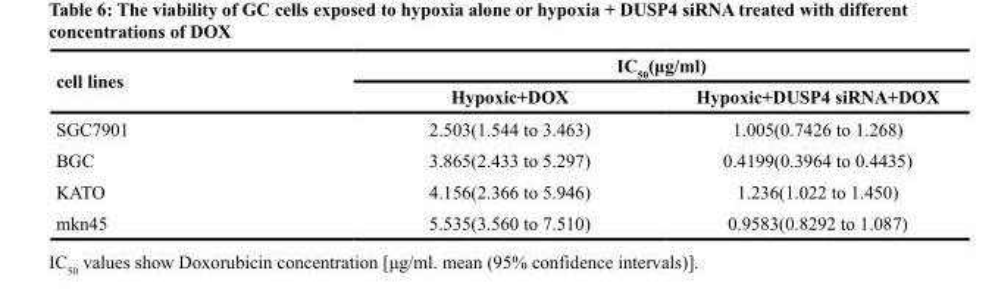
<table><thead><tr><td rowspan="2">cell lines</td><td colspan="2">IC<sub>50</sub>(μg/ml)</td></tr><tr><td>Hypoxic+DOX</td><td>Hypoxic+DUSP4 siRNA+DOX</td></tr></thead><tbody><tr><td>SGC7901</td><td>2.503(1.544 to 3.463)</td><td>1.005(0.7426 to 1.268)</td></tr><tr><td>BGC</td><td>3.865(2.433 to 5.297)</td><td>0.4199(0.3964 to 0.4435)</td></tr><tr><td>KATO</td><td>4.156(2.366 to 5.946)</td><td>1.236(1.022 to 1.450)</td></tr><tr><td>mkn45</td><td>5.535(3.560 to 7.510)</td><td>0.9583(0.8292 to 1.087)</td></tr></tbody></table>